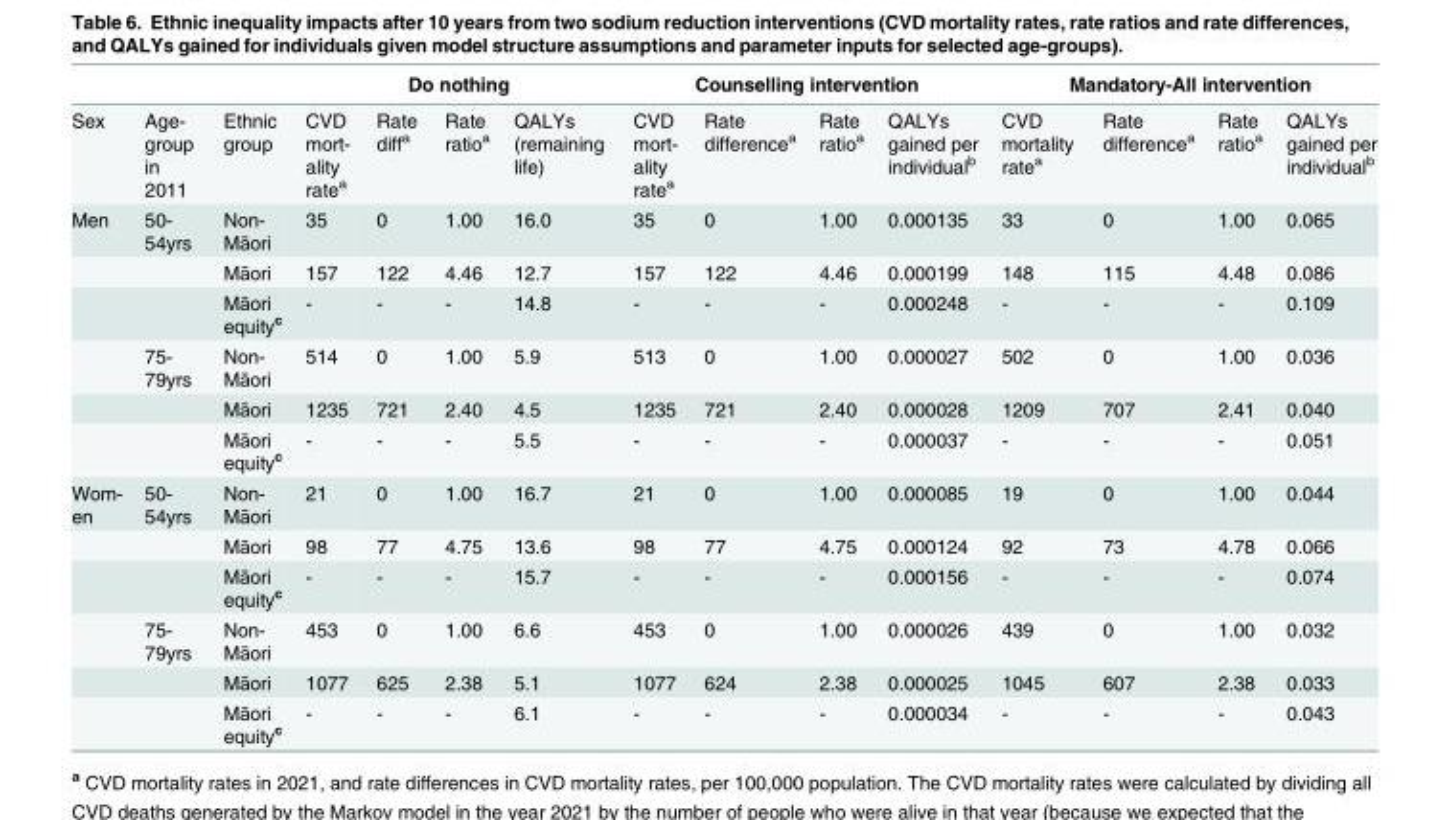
<table><thead><tr><td rowspan="2">Sex</td><td rowspan="2">Age- group in 2011</td><td rowspan="2">Ethnic group</td><td colspan="4">Do nothing</td><td colspan="4">Counselling intervention</td><td colspan="4">Mandatory-All intervention</td></tr><tr><td>CVD mort- ality rate<sup>a</sup></td><td>Rate diff<sup>a</sup></td><td>Rate ratio<sup>a</sup></td><td>QALYs (remaining life)</td><td>CVD mort- ality rate<sup>a</sup></td><td>Rate difference<sup>a</sup></td><td>Rate ratio<sup>a</sup></td><td>QALYs gained per individual<sup>b</sup></td><td>CVD mortality rate<sup>a</sup></td><td>Rate difference<sup>a</sup></td><td>Rate ratio<sup>a</sup></td><td>QALYs gained per individual<sup>b</sup></td></tr></thead><tbody><tr><td rowspan="6">Men</td><td>50- 54yrs</td><td>Non- Māori</td><td>35</td><td>0</td><td>1.00</td><td>16.0</td><td>35</td><td>0</td><td>1.00</td><td>0.000135</td><td>33</td><td>0</td><td>1.00</td><td>0.065</td></tr><tr><td></td><td>Māori</td><td>157</td><td>122</td><td>4.46</td><td>12.7</td><td>157</td><td>122</td><td>4.46</td><td>0.000199</td><td>148</td><td>115</td><td>4.48</td><td>0.086</td></tr><tr><td></td><td>Māori equity<sup>c</sup></td><td>-</td><td>-</td><td>-</td><td>14.8</td><td>-</td><td>-</td><td>-</td><td>0.000248</td><td>-</td><td>-</td><td>-</td><td>0.109</td></tr><tr><td>75- 79yrs</td><td>Non- Māori</td><td>514</td><td>0</td><td>1.00</td><td>5.9</td><td>513</td><td>0</td><td>1.00</td><td>0.000027</td><td>502</td><td>0</td><td>1.00</td><td>0.036</td></tr><tr><td></td><td>Māori</td><td>1235</td><td>721</td><td>2.40</td><td>4.5</td><td>1235</td><td>721</td><td>2.40</td><td>0.000028</td><td>1209</td><td>707</td><td>2.41</td><td>0.040</td></tr><tr><td></td><td>Māori equity<sup>c</sup></td><td>-</td><td>-</td><td>-</td><td>5.5</td><td>-</td><td>-</td><td>-</td><td>0.000037</td><td>-</td><td>-</td><td>-</td><td>0.051</td></tr><tr><td rowspan="6">Wom- en</td><td>50- 54yrs</td><td>Non- Māori</td><td>21</td><td>0</td><td>1.00</td><td>16.7</td><td>21</td><td>0</td><td>1.00</td><td>0.000085</td><td>19</td><td>0</td><td>1.00</td><td>0.044</td></tr><tr><td></td><td>Māori</td><td>98</td><td>77</td><td>4.75</td><td>13.6</td><td>98</td><td>77</td><td>4.75</td><td>0.000124</td><td>92</td><td>73</td><td>4.78</td><td>0.066</td></tr><tr><td></td><td>Māori equity<sup>c</sup></td><td>-</td><td>-</td><td>-</td><td>15.7</td><td>-</td><td>-</td><td>-</td><td>0.000156</td><td>-</td><td>-</td><td>-</td><td>0.074</td></tr><tr><td>75- 79yrs</td><td>Non- Māori</td><td>453</td><td>0</td><td>1.00</td><td>6.6</td><td>453</td><td>0</td><td>1.00</td><td>0.000026</td><td>439</td><td>0</td><td>1.00</td><td>0.032</td></tr><tr><td></td><td>Māori</td><td>1077</td><td>625</td><td>2.38</td><td>5.1</td><td>1077</td><td>624</td><td>2.38</td><td>0.000025</td><td>1045</td><td>607</td><td>2.38</td><td>0.033</td></tr><tr><td></td><td>Māori equity<sup>c</sup></td><td>-</td><td>-</td><td>-</td><td>6.1</td><td>-</td><td>-</td><td>-</td><td>0.000034</td><td>-</td><td>-</td><td>-</td><td>0.043</td></tr></tbody></table>